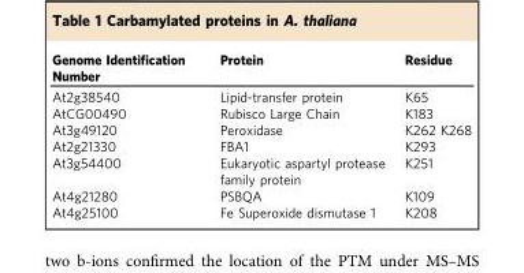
<table><thead><tr><td>Genome Identification Number</td><td>Protein</td><td>Residue</td></tr></thead><tbody><tr><td>At2g38540</td><td>Lipid-transfer protein</td><td>K65</td></tr><tr><td>AtCG00490</td><td>Rubisco Large Chain</td><td>K183</td></tr><tr><td>At3g49120</td><td>Peroxidase</td><td>K262 K268</td></tr><tr><td>At2g21330</td><td>FBA1</td><td>K293</td></tr><tr><td>At3g54400</td><td>Eukaryotic aspartyl protease family protein</td><td>K251</td></tr><tr><td>At4g21280</td><td>PSBQA</td><td>K109</td></tr><tr><td>At4g25100</td><td>Fe Superoxide dismutase 1</td><td>K208</td></tr></tbody></table>